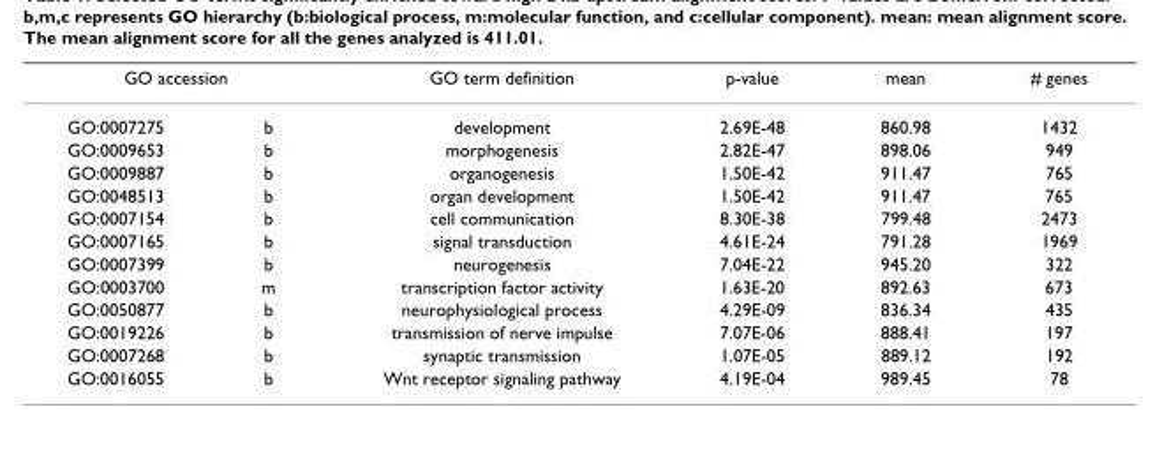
<table><thead><tr><td colspan="2">GO accession</td><td rowspan="2">GO term definition development</td><td rowspan="2">p-value 2.69E-48</td><td rowspan="2">mean 860.98</td><td rowspan="2"># genes 1432</td></tr><tr><td>GO:0007275</td><td>b</td></tr></thead><tbody><tr><td>GO:0009653</td><td>b</td><td>morphogenesis</td><td>2.82E-47</td><td>898.06</td><td>949</td></tr><tr><td>GO:0009887</td><td>b</td><td>organogenesis</td><td>1.50E-42</td><td>911.47</td><td>765</td></tr><tr><td>GO:0048513</td><td>b</td><td>organ development</td><td>1.50E-42</td><td>911.47</td><td>765</td></tr><tr><td>GO:0007154</td><td>b</td><td>cell communication</td><td>8.30E-38</td><td>799.48</td><td>2473</td></tr><tr><td>GO:0007165</td><td>b</td><td>signal transduction</td><td>4.61E-24</td><td>791.28</td><td>1969</td></tr><tr><td>GO:0007399</td><td>b</td><td>neurogenesis</td><td>7.04E-22</td><td>945.20</td><td>322</td></tr><tr><td>GO:0003700</td><td>m</td><td>transcription factor activity</td><td>1.63E-20</td><td>892.63</td><td>673</td></tr><tr><td>GO:0050877</td><td>b</td><td>neurophysiological process</td><td>4.29E-09</td><td>836.34</td><td>435</td></tr><tr><td>GO:0019226</td><td>b</td><td>transmission of nerve impulse</td><td>7.07E-06</td><td>888.41</td><td>197</td></tr><tr><td>GO:0007268</td><td>b</td><td>synaptic transmission</td><td>1.07E-05</td><td>889.12</td><td>192</td></tr><tr><td>GO:0016055</td><td>b</td><td>Wnt receptor signaling pathway</td><td>4.19E-04</td><td>989.45</td><td>78</td></tr></tbody></table>